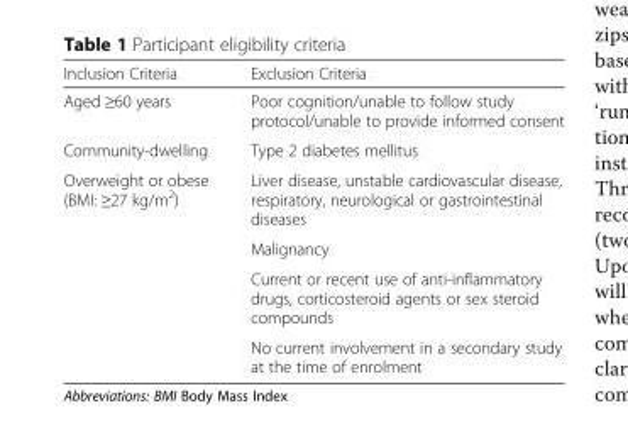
<table><thead><tr><td>Inclusion Criteria</td><td>Exclusion Criteria</td></tr></thead><tbody><tr><td>Aged ≥60 years</td><td>Poor cognition/unable to follow study protocol/unable to provide informed consent</td></tr><tr><td>Community-dwelling</td><td>Type 2 diabetes mellitus</td></tr><tr><td rowspan="4">Overweight or obese (BMI: ≥27 kg/m<sup>2</sup>)</td><td>Liver disease, unstable cardiovascular disease, respiratory, neurological or gastrointestinal diseases</td></tr><tr><td>Malignancy</td></tr><tr><td>Current or recent use of anti-inflammatory drugs, corticosteroid agents or sex steroid compounds</td></tr><tr><td>No current involvement in a secondary study at the time of enrolment</td></tr></tbody></table>